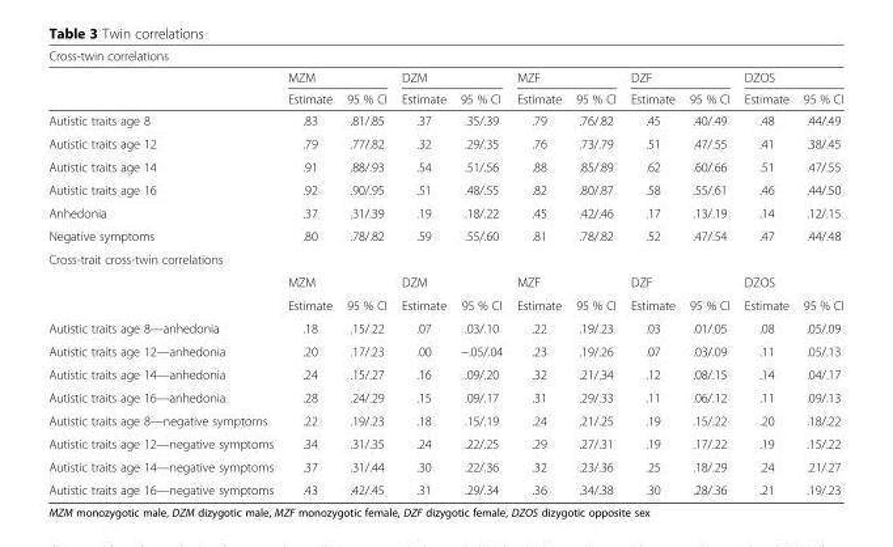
<table><thead><tr><td colspan="11">Cross-twin correlations</td></tr><tr><td rowspan="2"></td><td colspan="2">MZM</td><td colspan="2">DZM</td><td colspan="2">MZF</td><td colspan="2">DZF</td><td colspan="2">DZOS</td></tr><tr><td>Estimate</td><td>95 % CI</td><td>Estimate</td><td>95 % CI</td><td>Estimate</td><td>95 % CI</td><td>Estimate</td><td>95 % CI</td><td>Estimate</td><td>95 % CI</td></tr></thead><tbody><tr><td>Autistic traits age 8</td><td>.83</td><td>.81/.85</td><td>.37</td><td>.35/.39</td><td>.79</td><td>.76/.82</td><td>.45</td><td>.40/.49</td><td>.48</td><td>.44/.49</td></tr><tr><td>Autistic traits age 12</td><td>.79</td><td>.77/.82</td><td>.32</td><td>.29/.35</td><td>.76</td><td>.73/.79</td><td>.51</td><td>.47/.55</td><td>.41</td><td>.38/.45</td></tr><tr><td>Autistic traits age 14</td><td>.91</td><td>.88/.93</td><td>.54</td><td>.51/.56</td><td>.88</td><td>.85/.89</td><td>.62</td><td>.60/.66</td><td>.51</td><td>.47/.55</td></tr><tr><td>Autistic traits age 16</td><td>.92</td><td>.90/.95</td><td>.51</td><td>.48/.55</td><td>.82</td><td>.80/.87</td><td>.58</td><td>.55/.61</td><td>.46</td><td>.44/.50</td></tr><tr><td>Anhedonia</td><td>.37</td><td>.31/.39</td><td>.19</td><td>.18/.22</td><td>.45</td><td>.42/.46</td><td>.17</td><td>.13/.19</td><td>.14</td><td>.12/.15</td></tr><tr><td>Negative symptoms</td><td>.80</td><td>.78/.82</td><td>.59</td><td>.55/.60</td><td>.81</td><td>.78/.82</td><td>.52</td><td>.47/.54</td><td>.47</td><td>.44/.48</td></tr><tr><td colspan="11">Cross-trait cross-twin correlations</td></tr><tr><td></td><td colspan="2">MZM</td><td colspan="2">DZM</td><td colspan="2">MZF</td><td colspan="2">DZF</td><td colspan="2">DZOS</td></tr><tr><td></td><td>Estimate</td><td>95 % CI</td><td>Estimate</td><td>95 % CI</td><td>Estimate</td><td>95 % CI</td><td>Estimate</td><td>95 % CI</td><td>Estimate</td><td>95 % CI</td></tr><tr><td>Autistic traits age 8—anhedonia</td><td>.18</td><td>.15/.22</td><td>.07</td><td>.03/.10</td><td>.22</td><td>.19/.23</td><td>.03</td><td>.01/.05</td><td>.08</td><td>.05/.09</td></tr><tr><td>Autistic traits age 12—anhedonia</td><td>.20</td><td>.17/.23</td><td>.00</td><td>−.05/.04</td><td>.23</td><td>.19/.26</td><td>.07</td><td>.03/.09</td><td>.11</td><td>.05/.13</td></tr><tr><td>Autistic traits age 14—anhedonia</td><td>.24</td><td>.15/.27</td><td>.16</td><td>.09/.20</td><td>.32</td><td>.21/.34</td><td>.12</td><td>.08/.15</td><td>.14</td><td>.04/.17</td></tr><tr><td>Autistic traits age 16—anhedonia</td><td>.28</td><td>.24/.29</td><td>.15</td><td>.09/.17</td><td>.31</td><td>.29/.33</td><td>.11</td><td>.06/.12</td><td>.11</td><td>.09/.13</td></tr><tr><td>Autistic traits age 8—negative symptoms</td><td>.22</td><td>.19/.23</td><td>.18</td><td>.15/.19</td><td>.24</td><td>.21/.25</td><td>.19</td><td>.15/.22</td><td>.20</td><td>.18/.22</td></tr><tr><td>Autistic traits age 12—negative symptoms</td><td>.34</td><td>.31/.35</td><td>.24</td><td>.22/.25</td><td>.29</td><td>.27/.31</td><td>.19</td><td>.17/.22</td><td>.19</td><td>.15/.22</td></tr><tr><td>Autistic traits age 14—negative symptoms</td><td>.37</td><td>.31/.44</td><td>.30</td><td>.22/.36</td><td>.32</td><td>.23/.36</td><td>.25</td><td>.18/.29</td><td>.24</td><td>.21/.27</td></tr><tr><td>Autistic traits age 16—negative symptoms</td><td>.43</td><td>.42/.45</td><td>.31</td><td>.29/.34</td><td>.36</td><td>.34/.38</td><td>.30</td><td>.28/.36</td><td>.21</td><td>.19/.23</td></tr></tbody></table>